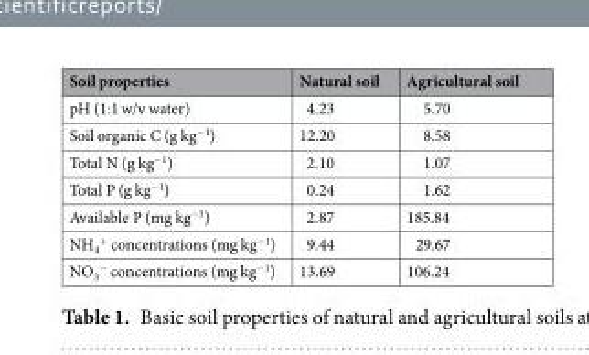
<table><thead><tr><td>Soil properties</td><td>Natural soil</td><td>Agricultural soil</td></tr></thead><tbody><tr><td>pH (1:1 w/v water)</td><td>4.23</td><td>5.70</td></tr><tr><td>Soil organic C (g kg<sup>−1</sup>)</td><td>12.20</td><td>8.58</td></tr><tr><td>Total N (g kg<sup>−1</sup>)</td><td>2.10</td><td>1.07</td></tr><tr><td>Total P (g kg<sup>−1</sup>)</td><td>0.24</td><td>1.62</td></tr><tr><td>Available P (mg kg<sup>−1</sup>)</td><td>2.87</td><td>185.84</td></tr><tr><td>NH<sub>4</sub> <sup>+</sup> concentrations (mg kg<sup>−1</sup>)</td><td>9.44</td><td>29.67</td></tr><tr><td>NO<sub>3</sub> <sup>−</sup> concentrations (mg kg<sup>−1</sup>)</td><td>13.69</td><td>106.24</td></tr></tbody></table>